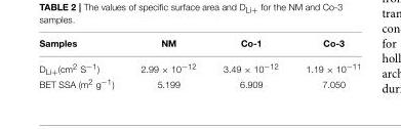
<table><thead><tr><td>Samples</td><td>NM</td><td>Co-1</td><td>Co-3</td></tr></thead><tbody><tr><td>D<sub>Li+</sub>(cm<sup>2</sup> S<sup>−1</sup>)</td><td>2.99 × 10<sup>−12</sup></td><td>3.49 × 10<sup>−12</sup></td><td>1.19 × 10<sup>−11</sup></td></tr><tr><td>BET SSA (m<sup>2</sup> g<sup>−1</sup>)</td><td>5.199</td><td>6.909</td><td>7.050</td></tr></tbody></table>